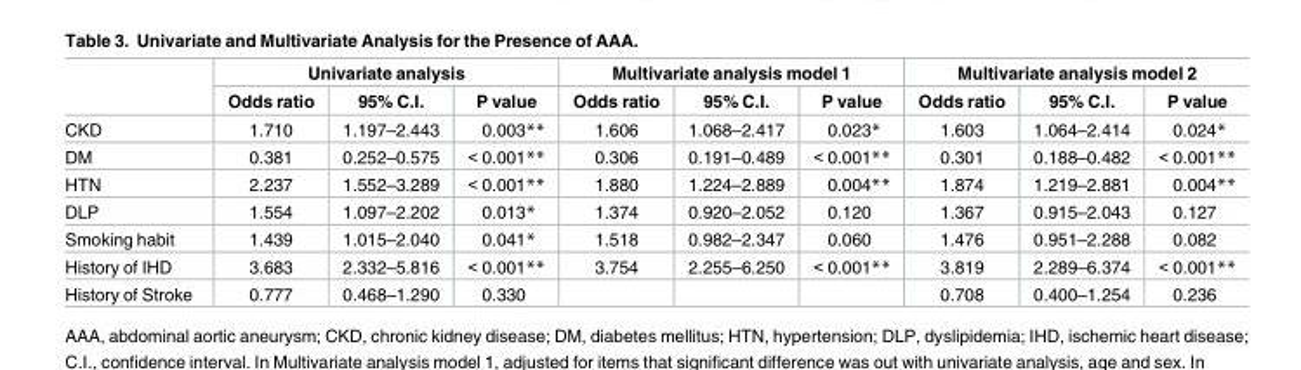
<table><thead><tr><td rowspan="2"></td><td colspan="3">Univariate analysis</td><td colspan="3">Multivariate analysis model 1</td><td colspan="3">Multivariate analysis model 2</td></tr><tr><td>Odds ratio</td><td>95% C.I.</td><td>P value</td><td>Odds ratio</td><td>95% C.I.</td><td>P value</td><td>Odds ratio</td><td>95% C.I.</td><td>P value</td></tr></thead><tbody><tr><td>CKD</td><td>1.710</td><td>1.197–2.443</td><td>0.003**</td><td>1.606</td><td>1.068–2.417</td><td>0.023*</td><td>1.603</td><td>1.064–2.414</td><td>0.024*</td></tr><tr><td>DM</td><td>0.381</td><td>0.252–0.575</td><td>&lt; 0.001**</td><td>0.306</td><td>0.191–0.489</td><td>&lt; 0.001**</td><td>0.301</td><td>0.188–0.482</td><td>&lt; 0.001**</td></tr><tr><td>HTN</td><td>2.237</td><td>1.552–3.289</td><td>&lt; 0.001**</td><td>1.880</td><td>1.224–2.889</td><td>0.004**</td><td>1.874</td><td>1.219–2.881</td><td>0.004**</td></tr><tr><td>DLP</td><td>1.554</td><td>1.097–2.202</td><td>0.013*</td><td>1.374</td><td>0.920–2.052</td><td>0.120</td><td>1.367</td><td>0.915–2.043</td><td>0.127</td></tr><tr><td>Smoking habit</td><td>1.439</td><td>1.015–2.040</td><td>0.041*</td><td>1.518</td><td>0.982–2.347</td><td>0.060</td><td>1.476</td><td>0.951–2.288</td><td>0.082</td></tr><tr><td>History of IHD</td><td>3.683</td><td>2.332–5.816</td><td>&lt; 0.001**</td><td>3.754</td><td>2.255–6.250</td><td>&lt; 0.001**</td><td>3.819</td><td>2.289–6.374</td><td>&lt; 0.001**</td></tr><tr><td>History of Stroke</td><td>0.777</td><td>0.468–1.290</td><td>0.330</td><td></td><td></td><td></td><td>0.708</td><td>0.400–1.254</td><td>0.236</td></tr></tbody></table>